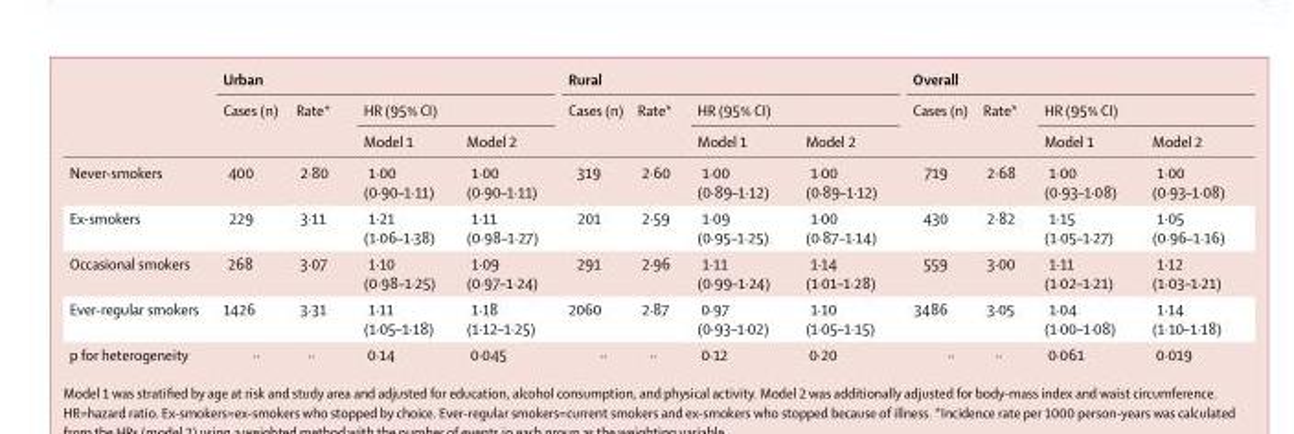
<table><thead><tr><td rowspan="3"></td><td colspan="4">Urban</td><td colspan="4">Rural</td><td colspan="4">Overall</td></tr><tr><td rowspan="2">Cases (n)</td><td rowspan="2">Rate*</td><td colspan="2">HR (95% CI)</td><td rowspan="2">Cases (n)</td><td rowspan="2">Rate*</td><td colspan="2">HR (95% CI)</td><td rowspan="2">Cases (n)</td><td rowspan="2">Rate*</td><td colspan="2">HR (95% CI)</td></tr><tr><td>Model 1</td><td>Model 2</td><td>Model 1</td><td>Model 2</td><td>Model 1</td><td>Model 2</td></tr></thead><tbody><tr><td>Never-smokers</td><td>400</td><td>2·80</td><td>1·00 (0·90–1·11)</td><td>1·00 (0·90–1·11)</td><td>319</td><td>2·60</td><td>1·00 (0·89–1·12)</td><td>1·00 (0·89–1·12)</td><td>719</td><td>2·68</td><td>1·00 (0·93–1·08)</td><td>1·00 (0·93–1·08)</td></tr><tr><td>Ex-smokers</td><td>229</td><td>3·11</td><td>1·21 (1·06–1·38)</td><td>1·11 (0·98–1·27)</td><td>201</td><td>2·59</td><td>1·09 (0·95–1·25)</td><td>1·00 (0·87–1·14)</td><td>430</td><td>2·82</td><td>1·15 (1·05–1·27)</td><td>1·05 (0·96–1·16)</td></tr><tr><td>Occasional smokers</td><td>268</td><td>3·07</td><td>1·10 (0·98–1·25)</td><td>1·09 (0·97–1·24)</td><td>291</td><td>2·96</td><td>1·11 (0·99–1·24)</td><td>1·14 (1·01–1·28)</td><td>559</td><td>3·00</td><td>1·11 (1·02–1·21)</td><td>1·12 (1·03–1·21)</td></tr><tr><td>Ever-regular smokers</td><td>1426</td><td>3·31</td><td>1·11 (1·05–1·18)</td><td>1·18 (1·12–1·25)</td><td>2060</td><td>2·87</td><td>0·97 (0·93–1·02)</td><td>1·10 (1·05–1·15)</td><td>3486</td><td>3·05</td><td>1·04 (1·00–1·08)</td><td>1·14 (1·10–1·18)</td></tr><tr><td>p for heterogeneity</td><td>··</td><td>··</td><td>0·14</td><td>0·045</td><td>··</td><td>··</td><td>0·12</td><td>0·20</td><td>··</td><td>··</td><td>0·061</td><td>0·019</td></tr></tbody></table>